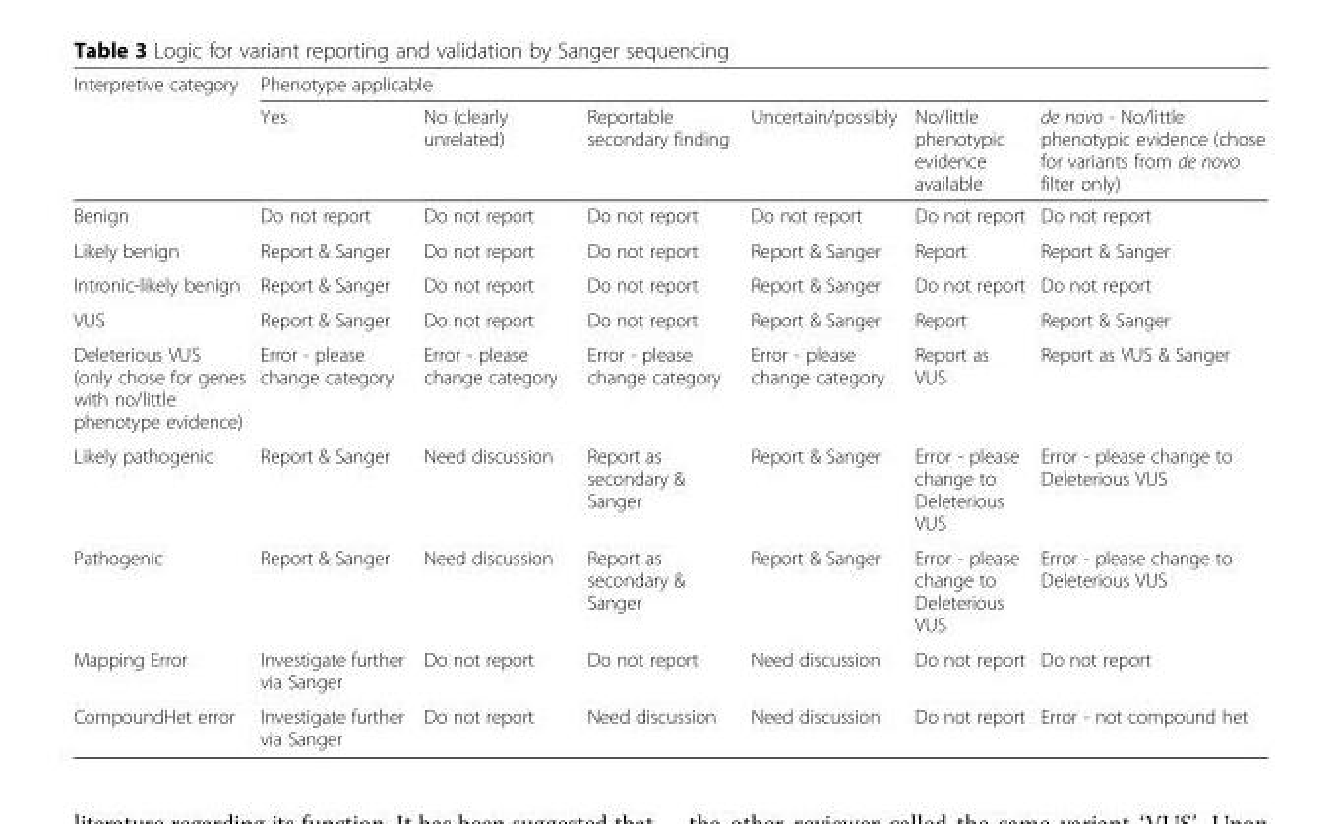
<table><thead><tr><td rowspan="2">Interpretive category</td><td colspan="6">Phenotype applicable</td></tr><tr><td>Yes</td><td>No (clearly unrelated)</td><td>Reportable secondary finding</td><td>Uncertain/possibly</td><td>No/little phenotypic evidence available</td><td>de novo - No/little phenotypic evidence (chose for variants from de novo filter only)</td></tr></thead><tbody><tr><td>Benign</td><td>Do not report</td><td>Do not report</td><td>Do not report</td><td>Do not report</td><td>Do not report</td><td>Do not report</td></tr><tr><td>Likely benign</td><td>Report &amp; Sanger</td><td>Do not report</td><td>Do not report</td><td>Report &amp; Sanger</td><td>Report</td><td>Report &amp; Sanger</td></tr><tr><td>Intronic-likely benign</td><td>Report &amp; Sanger</td><td>Do not report</td><td>Do not report</td><td>Report &amp; Sanger</td><td>Do not report</td><td>Do not report</td></tr><tr><td>VUS</td><td>Report &amp; Sanger</td><td>Do not report</td><td>Do not report</td><td>Report &amp; Sanger</td><td>Report</td><td>Report &amp; Sanger</td></tr><tr><td>Deleterious VUS (only chose for genes with no/little phenotype evidence)</td><td>Error - please change category</td><td>Error - please change category</td><td>Error - please change category</td><td>Error - please change category</td><td>Report as VUS</td><td>Report as VUS &amp; Sanger</td></tr><tr><td>Likely pathogenic</td><td>Report &amp; Sanger</td><td>Need discussion</td><td>Report as secondary &amp; Sanger</td><td>Report &amp; Sanger</td><td>Error - please change to Deleterious VUS</td><td>Error - please change to Deleterious VUS</td></tr><tr><td>Pathogenic</td><td>Report &amp; Sanger</td><td>Need discussion</td><td>Report as secondary &amp; Sanger</td><td>Report &amp; Sanger</td><td>Error - please change to Deleterious VUS</td><td>Error - please change to Deleterious VUS</td></tr><tr><td>Mapping Error</td><td>Investigate further via Sanger</td><td>Do not report</td><td>Do not report</td><td>Need discussion</td><td>Do not report</td><td>Do not report</td></tr><tr><td>CompoundHet error</td><td>Investigate further via Sanger</td><td>Do not report</td><td>Need discussion</td><td>Need discussion</td><td>Do not report</td><td>Error - not compound het</td></tr></tbody></table>